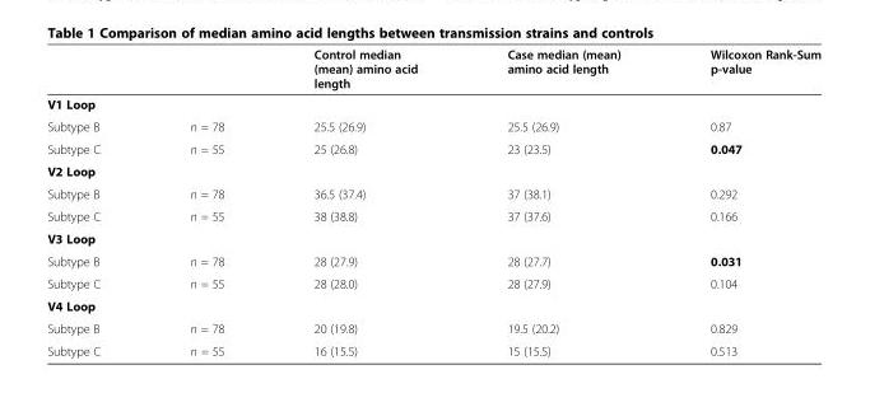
<table><thead><tr><td></td><td></td><td>Control median (mean) amino acid length</td><td>Case median (mean) amino acid length</td><td>Wilcoxon Rank-Sum p-value</td></tr></thead><tbody><tr><td colspan="5">V1 Loop</td></tr><tr><td>Subtype B</td><td>n = 78</td><td>25.5 (26.9)</td><td>25.5 (26.9)</td><td>0.87</td></tr><tr><td>Subtype C</td><td>n = 55</td><td>25 (26.8)</td><td>23 (23.5)</td><td>0.047</td></tr><tr><td colspan="5">V2 Loop</td></tr><tr><td>Subtype B</td><td>n = 78</td><td>36.5 (37.4)</td><td>37 (38.1)</td><td>0.292</td></tr><tr><td>Subtype C</td><td>n = 55</td><td>38 (38.8)</td><td>37 (37.6)</td><td>0.166</td></tr><tr><td colspan="5">V3 Loop</td></tr><tr><td>Subtype B</td><td>n = 78</td><td>28 (27.9)</td><td>28 (27.7)</td><td>0.031</td></tr><tr><td>Subtype C</td><td>n = 55</td><td>28 (28.0)</td><td>28 (27.9)</td><td>0.104</td></tr><tr><td colspan="5">V4 Loop</td></tr><tr><td>Subtype B</td><td>n = 78</td><td>20 (19.8)</td><td>19.5 (20.2)</td><td>0.829</td></tr><tr><td>Subtype C</td><td>n = 55</td><td>16 (15.5)</td><td>15 (15.5)</td><td>0.513</td></tr></tbody></table>